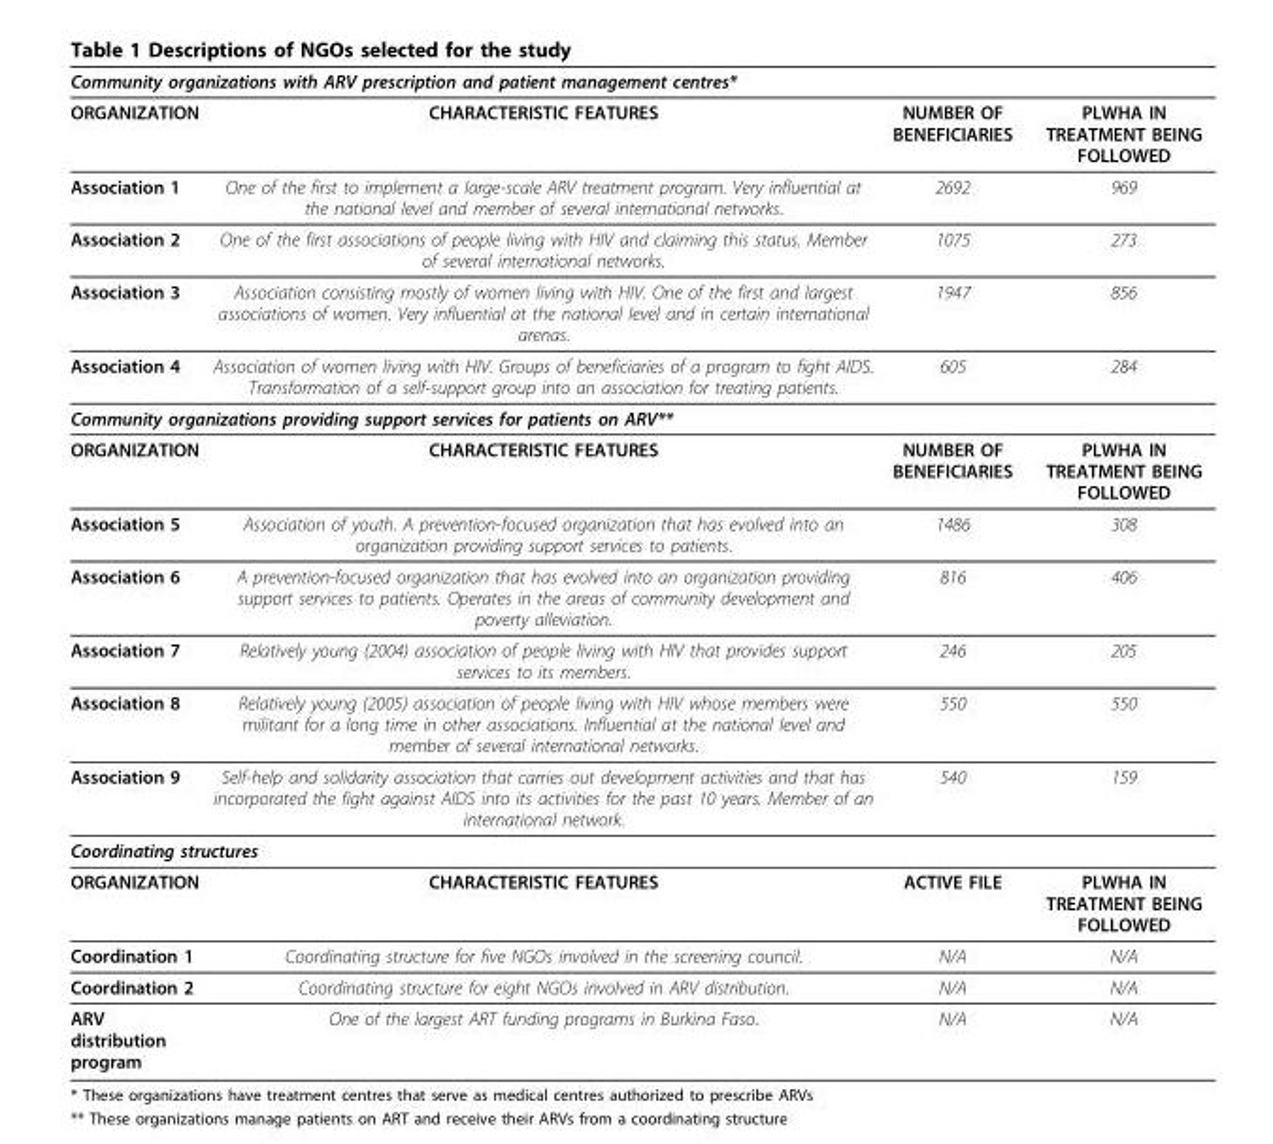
<table><thead><tr><td colspan="4">Community organizations with ARV prescription and patient management centres*</td></tr><tr><td>ORGANIZATION</td><td>CHARACTERISTIC FEATURES</td><td>NUMBER OF BENEFICIARIES</td><td>PLWHA IN TREATMENT BEING FOLLOWED</td></tr></thead><tbody><tr><td>Association 1</td><td>One of the first to implement a large-scale ARV treatment program. Very influential at the national level and member of several international networks.</td><td>2692</td><td>969</td></tr><tr><td>Association 2</td><td>One of the first associations of people living with HIV and claiming this status. Member of several international networks.</td><td>1075</td><td>273</td></tr><tr><td>Association 3</td><td>Association consisting mostly of women living with HIV. One of the first and largest associations of women. Very influential at the national level and in certain international arenas.</td><td>1947</td><td>856</td></tr><tr><td>Association 4</td><td>Association of women living with HIV. Groups of beneficiaries of a program to fight AIDS. Transformation of a self-support group into an association for treating patients.</td><td>605</td><td>284</td></tr><tr><td colspan="4">Community organizations providing support services for patients on ARV**</td></tr><tr><td>ORGANIZATION</td><td>CHARACTERISTIC FEATURES</td><td>NUMBER OF BENEFICIARIES</td><td>PLWHA IN TREATMENT BEING FOLLOWED</td></tr><tr><td>Association 5</td><td>Association of youth. A prevention-focused organization that has evolved into an organization providing support services to patients.</td><td>1486</td><td>308</td></tr><tr><td>Association 6</td><td>A prevention-focused organization that has evolved into an organization providing support services to patients. Operates in the areas of community development and poverty alleviation.</td><td>816</td><td>406</td></tr><tr><td>Association 7</td><td>Relatively young (2004) association of people living with HIV that provides support services to its members.</td><td>246</td><td>205</td></tr><tr><td>Association 8</td><td>Relatively young (2005) association of people living with HIV whose members were militant for a long time in other associations. Influential at the national level and member of several international networks.</td><td>550</td><td>550</td></tr><tr><td>Association 9</td><td>Self-help and solidarity association that carries out development activities and that has incorporated the fight against AIDS into its activities for the past 10 years. Member of an international network.</td><td>540</td><td>159</td></tr><tr><td colspan="4">Coordinating structures</td></tr><tr><td>ORGANIZATION</td><td>CHARACTERISTIC FEATURES</td><td>ACTIVE FILE</td><td>PLWHA IN TREATMENT BEING FOLLOWED</td></tr><tr><td>Coordination 1</td><td>Coordinating structure for five NGOs involved in the screening council.</td><td>N/A</td><td>N/A</td></tr><tr><td>Coordination 2</td><td>Coordinating structure for eight NGOs involved in ARV distribution.</td><td>N/A</td><td>N/A</td></tr><tr><td>ARV distribution program</td><td>One of the largest ART funding programs in Burkina Faso.</td><td>N/A</td><td>N/A</td></tr></tbody></table>